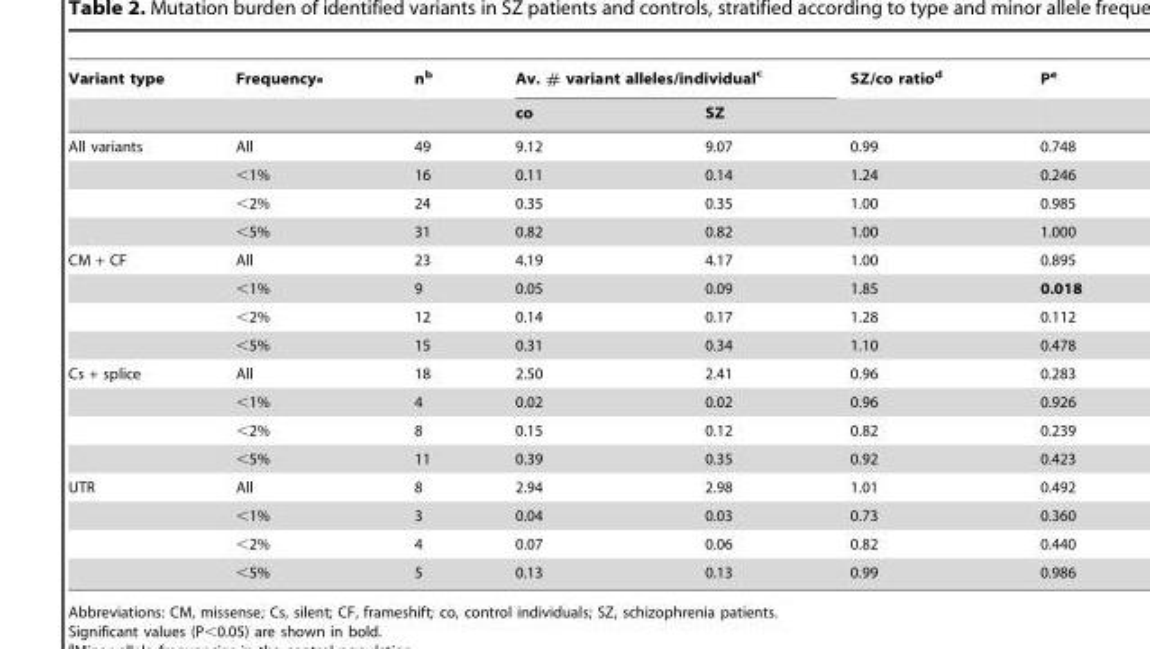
<table><thead><tr><td rowspan="2">Variant type</td><td rowspan="2">Frequency<sup>a</sup></td><td rowspan="2">n<sup>b</sup></td><td colspan="2">Av. # variant alleles/individual<sup>c</sup></td><td rowspan="2">SZ/co ratio<sup>d</sup></td><td rowspan="2">P<sup>e</sup></td></tr><tr><td>co</td><td>SZ</td></tr></thead><tbody><tr><td rowspan="4">All variants</td><td>All</td><td>49</td><td>9.12</td><td>9.07</td><td>0.99</td><td>0.748</td></tr><tr><td>&lt;1%</td><td>16</td><td>0.11</td><td>0.14</td><td>1.24</td><td>0.246</td></tr><tr><td>&lt;2%</td><td>24</td><td>0.35</td><td>0.35</td><td>1.00</td><td>0.985</td></tr><tr><td>&lt;5%</td><td>31</td><td>0.82</td><td>0.82</td><td>1.00</td><td>1.000</td></tr><tr><td rowspan="4">CM + CF</td><td>All</td><td>23</td><td>4.19</td><td>4.17</td><td>1.00</td><td>0.895</td></tr><tr><td>&lt;1%</td><td>9</td><td>0.05</td><td>0.09</td><td>1.85</td><td>0.018</td></tr><tr><td>&lt;2%</td><td>12</td><td>0.14</td><td>0.17</td><td>1.28</td><td>0.112</td></tr><tr><td>&lt;5%</td><td>15</td><td>0.31</td><td>0.34</td><td>1.10</td><td>0.478</td></tr><tr><td rowspan="4">Cs + splice</td><td>All</td><td>18</td><td>2.50</td><td>2.41</td><td>0.96</td><td>0.283</td></tr><tr><td>&lt;1%</td><td>4</td><td>0.02</td><td>0.02</td><td>0.96</td><td>0.926</td></tr><tr><td>&lt;2%</td><td>8</td><td>0.15</td><td>0.12</td><td>0.82</td><td>0.239</td></tr><tr><td>&lt;5%</td><td>11</td><td>0.39</td><td>0.35</td><td>0.92</td><td>0.423</td></tr><tr><td rowspan="4">UTR</td><td>All</td><td>8</td><td>2.94</td><td>2.98</td><td>1.01</td><td>0.492</td></tr><tr><td>&lt;1%</td><td>3</td><td>0.04</td><td>0.03</td><td>0.73</td><td>0.360</td></tr><tr><td>&lt;2%</td><td>4</td><td>0.07</td><td>0.06</td><td>0.82</td><td>0.440</td></tr><tr><td>&lt;5%</td><td>5</td><td>0.13</td><td>0.13</td><td>0.99</td><td>0.986</td></tr></tbody></table>